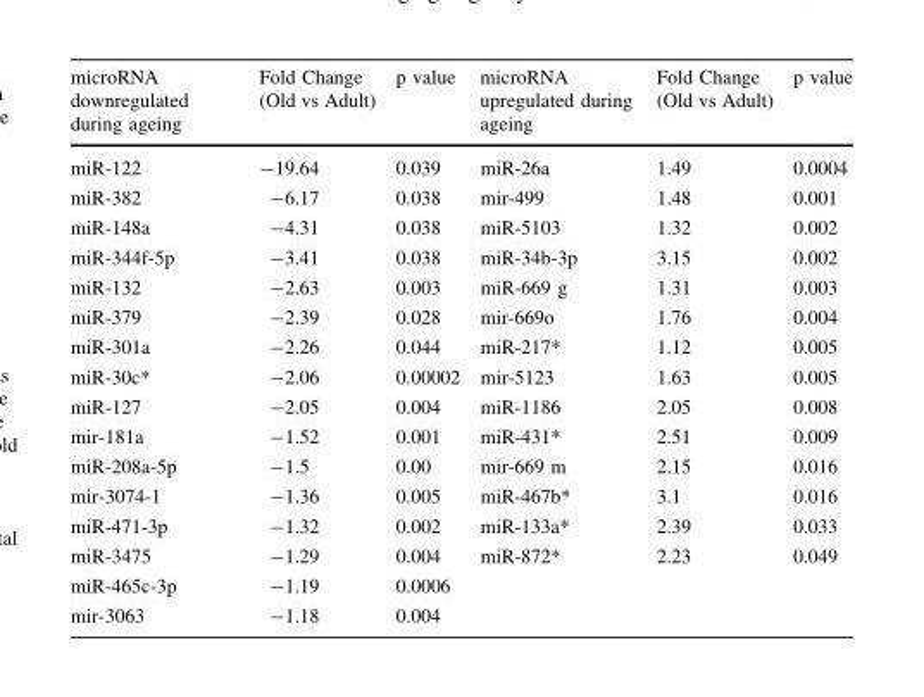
<table><thead><tr><td>microRNA downregulated during ageing</td><td>Fold Change (Old vs Adult)</td><td>p value</td><td>microRNA upregulated during ageing</td><td>Fold Change (Old vs Adult)</td><td>p value</td></tr></thead><tbody><tr><td>miR-122</td><td>-19.64</td><td>0.039</td><td>miR-26a</td><td>1.49</td><td>0.0004</td></tr><tr><td>miR-382</td><td>-6.17</td><td>0.038</td><td>mir-499</td><td>1.48</td><td>0.001</td></tr><tr><td>miR-148a</td><td>-4.31</td><td>0.038</td><td>miR-5103</td><td>1.32</td><td>0.002</td></tr><tr><td>miR-344f-5p</td><td>-3.41</td><td>0.038</td><td>miR-34b-3p</td><td>3.15</td><td>0.002</td></tr><tr><td>miR-132</td><td>-2.63</td><td>0.003</td><td>miR-669 g</td><td>1.31</td><td>0.003</td></tr><tr><td>miR-379</td><td>-2.39</td><td>0.028</td><td>mir-669o</td><td>1.76</td><td>0.004</td></tr><tr><td>miR-301a</td><td>-2.26</td><td>0.044</td><td>miR-217*</td><td>1.12</td><td>0.005</td></tr><tr><td>miR-30c*</td><td>-2.06</td><td>0.00002</td><td>mir-5123</td><td>1.63</td><td>0.005</td></tr><tr><td>miR-127</td><td>-2.05</td><td>0.004</td><td>miR-1186</td><td>2.05</td><td>0.008</td></tr><tr><td>mir-181a</td><td>-1.52</td><td>0.001</td><td>miR-431*</td><td>2.51</td><td>0.009</td></tr><tr><td>miR-208a-5p</td><td>-1.5</td><td>0.00</td><td>mir-669 m</td><td>2.15</td><td>0.016</td></tr><tr><td>mir-3074-1</td><td>-1.36</td><td>0.005</td><td>miR-467b*</td><td>3.1</td><td>0.016</td></tr><tr><td>miR-471-3p</td><td>-1.32</td><td>0.002</td><td>miR-133a*</td><td>2.39</td><td>0.033</td></tr><tr><td>miR-3475</td><td>-1.29</td><td>0.004</td><td>miR-872*</td><td>2.23</td><td>0.049</td></tr><tr><td>miR-465c-3p</td><td>-1.19</td><td>0.0006</td><td></td><td></td><td></td></tr><tr><td>mir-3063</td><td>-1.18</td><td>0.004</td><td></td><td></td><td></td></tr></tbody></table>